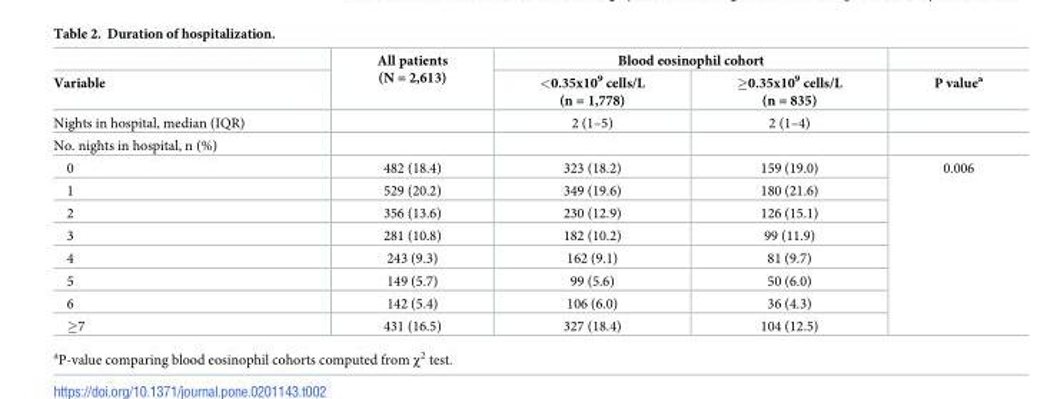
<table><thead><tr><td rowspan="2">Variable</td><td rowspan="2">All patients (N = 2,613)</td><td colspan="2">Blood eosinophil cohort</td><td rowspan="2">P value<sup>a</sup></td></tr><tr><td>&lt;0.35x10<sup>9</sup> cells/L (n = 1,778)</td><td>≥0.35x10<sup>9</sup> cells/L (n = 835)</td></tr></thead><tbody><tr><td>Nights in hospital, median (IQR)</td><td></td><td>2 (1–5)</td><td>2 (1–4)</td><td></td></tr><tr><td colspan="5">No. nights in hospital, n (%)</td></tr><tr><td>0</td><td>482 (18.4)</td><td>323 (18.2)</td><td>159 (19.0)</td><td rowspan="8">0.006</td></tr><tr><td>1</td><td>529 (20.2)</td><td>349 (19.6)</td><td>180 (21.6)</td></tr><tr><td>2</td><td>356 (13.6)</td><td>230 (12.9)</td><td>126 (15.1)</td></tr><tr><td>3</td><td>281 (10.8)</td><td>182 (10.2)</td><td>99 (11.9)</td></tr><tr><td>4</td><td>243 (9.3)</td><td>162 (9.1)</td><td>81 (9.7)</td></tr><tr><td>5</td><td>149 (5.7)</td><td>99 (5.6)</td><td>50 (6.0)</td></tr><tr><td>6</td><td>142 (5.4)</td><td>106 (6.0)</td><td>36 (4.3)</td></tr><tr><td>≥7</td><td>431 (16.5)</td><td>327 (18.4)</td><td>104 (12.5)</td></tr></tbody></table>